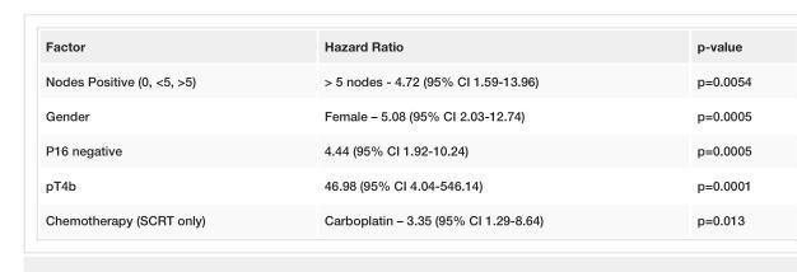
<table><tbody><tr><td>Factor</td><td>Hazard Ratio</td><td>p-value</td></tr><tr><td>Nodes Positive (0, &lt;5, &gt;5)</td><td>&gt; 5 nodes - 4.72 (95% CI 1.59-13.96)</td><td>p=0.0054</td></tr><tr><td>Gender</td><td>Female – 5.08 (95% CI 2.03-12.74)</td><td>p=0.0005</td></tr><tr><td>P16 negative</td><td>4.44 (95% CI 1.92-10.24)</td><td>p=0.0005</td></tr><tr><td>pT4b</td><td>46.98 (95% CI 4.04-546.14)</td><td>p=0.0001</td></tr><tr><td>Chemotherapy (SCRT only)</td><td>Carboplatin – 3.35 (95% CI 1.29-8.64)</td><td>p=0.013</td></tr></tbody></table>